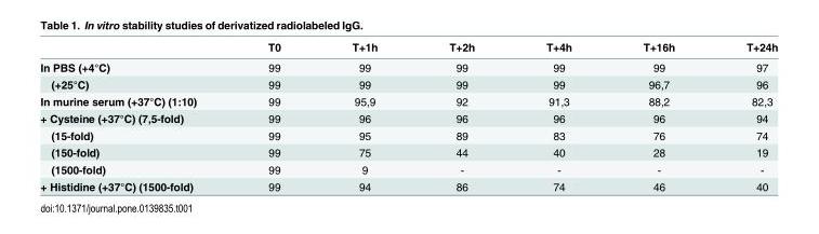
<table><thead><tr><td></td><td>T0</td><td>T+1h</td><td>T+2h</td><td>T+4h</td><td>T+16h</td><td>T+24h</td></tr></thead><tbody><tr><td>In PBS (+4°C)</td><td>99</td><td>99</td><td>99</td><td>99</td><td>99</td><td>97</td></tr><tr><td>(+25°C)</td><td>99</td><td>99</td><td>99</td><td>99</td><td>96,7</td><td>96</td></tr><tr><td>In murine serum (+37°C) (1:10)</td><td>99</td><td>95,9</td><td>92</td><td>91,3</td><td>88,2</td><td>82,3</td></tr><tr><td>+ Cysteine (+37°C) (7,5-fold)</td><td>99</td><td>96</td><td>96</td><td>96</td><td>96</td><td>94</td></tr><tr><td>(15-fold)</td><td>99</td><td>95</td><td>89</td><td>83</td><td>76</td><td>74</td></tr><tr><td>(150-fold)</td><td>99</td><td>75</td><td>44</td><td>40</td><td>28</td><td>19</td></tr><tr><td>(1500-fold)</td><td>99</td><td>9</td><td>-</td><td>-</td><td>-</td><td>-</td></tr><tr><td>+ Histidine (+37°C) (1500-fold)</td><td>99</td><td>94</td><td>86</td><td>74</td><td>46</td><td>40</td></tr></tbody></table>